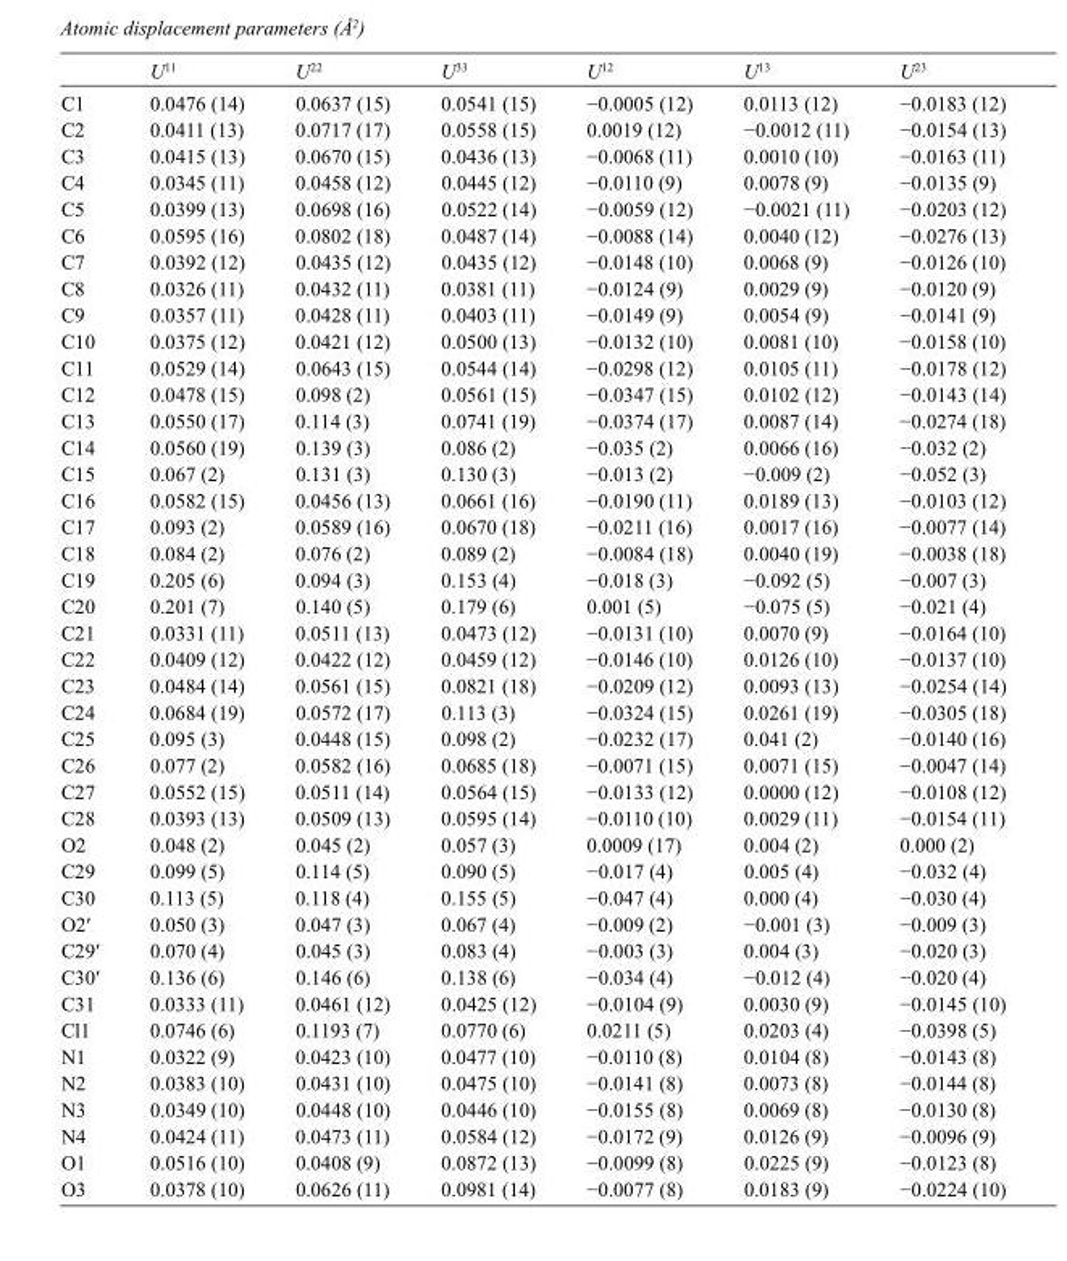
<table><thead><tr><td></td><td>U<sup>11</sup></td><td>U<sup>22</sup></td><td>U<sup>33</sup></td><td>U<sup>12</sup></td><td>U<sup>13</sup></td><td>U<sup>23</sup></td></tr></thead><tbody><tr><td>C1</td><td>0.0476 (14)</td><td>0.0637 (15)</td><td>0.0541 (15)</td><td>−0.0005 (12)</td><td>0.0113 (12)</td><td>−0.0183 (12)</td></tr><tr><td>C2</td><td>0.0411 (13)</td><td>0.0717 (17)</td><td>0.0558 (15)</td><td>0.0019 (12)</td><td>−0.0012 (11)</td><td>−0.0154 (13)</td></tr><tr><td>C3</td><td>0.0415 (13)</td><td>0.0670 (15)</td><td>0.0436 (13)</td><td>−0.0068 (11)</td><td>0.0010 (10)</td><td>−0.0163 (11)</td></tr><tr><td>C4</td><td>0.0345 (11)</td><td>0.0458 (12)</td><td>0.0445 (12)</td><td>−0.0110 (9)</td><td>0.0078 (9)</td><td>−0.0135 (9)</td></tr><tr><td>C5</td><td>0.0399 (13)</td><td>0.0698 (16)</td><td>0.0522 (14)</td><td>−0.0059 (12)</td><td>−0.0021 (11)</td><td>−0.0203 (12)</td></tr><tr><td>C6</td><td>0.0595 (16)</td><td>0.0802 (18)</td><td>0.0487 (14)</td><td>−0.0088 (14)</td><td>0.0040 (12)</td><td>−0.0276 (13)</td></tr><tr><td>C7</td><td>0.0392 (12)</td><td>0.0435 (12)</td><td>0.0435 (12)</td><td>−0.0148 (10)</td><td>0.0068 (9)</td><td>−0.0126 (10)</td></tr><tr><td>C8</td><td>0.0326 (11)</td><td>0.0432 (11)</td><td>0.0381 (11)</td><td>−0.0124 (9)</td><td>0.0029 (9)</td><td>−0.0120 (9)</td></tr><tr><td>C9</td><td>0.0357 (11)</td><td>0.0428 (11)</td><td>0.0403 (11)</td><td>−0.0149 (9)</td><td>0.0054 (9)</td><td>−0.0141 (9)</td></tr><tr><td>C10</td><td>0.0375 (12)</td><td>0.0421 (12)</td><td>0.0500 (13)</td><td>−0.0132 (10)</td><td>0.0081 (10)</td><td>−0.0158 (10)</td></tr><tr><td>C11</td><td>0.0529 (14)</td><td>0.0643 (15)</td><td>0.0544 (14)</td><td>−0.0298 (12)</td><td>0.0105 (11)</td><td>−0.0178 (12)</td></tr><tr><td>C12</td><td>0.0478 (15)</td><td>0.098 (2)</td><td>0.0561 (15)</td><td>−0.0347 (15)</td><td>0.0102 (12)</td><td>−0.0143 (14)</td></tr><tr><td>C13</td><td>0.0550 (17)</td><td>0.114 (3)</td><td>0.0741 (19)</td><td>−0.0374 (17)</td><td>0.0087 (14)</td><td>−0.0274 (18)</td></tr><tr><td>C14</td><td>0.0560 (19)</td><td>0.139 (3)</td><td>0.086 (2)</td><td>−0.035 (2)</td><td>0.0066 (16)</td><td>−0.032 (2)</td></tr><tr><td>C15</td><td>0.067 (2)</td><td>0.131 (3)</td><td>0.130 (3)</td><td>−0.013 (2)</td><td>−0.009 (2)</td><td>−0.052 (3)</td></tr><tr><td>C16</td><td>0.0582 (15)</td><td>0.0456 (13)</td><td>0.0661 (16)</td><td>−0.0190 (11)</td><td>0.0189 (13)</td><td>−0.0103 (12)</td></tr><tr><td>C17</td><td>0.093 (2)</td><td>0.0589 (16)</td><td>0.0670 (18)</td><td>−0.0211 (16)</td><td>0.0017 (16)</td><td>−0.0077 (14)</td></tr><tr><td>C18</td><td>0.084 (2)</td><td>0.076 (2)</td><td>0.089 (2)</td><td>−0.0084 (18)</td><td>0.0040 (19)</td><td>−0.0038 (18)</td></tr><tr><td>C19</td><td>0.205 (6)</td><td>0.094 (3)</td><td>0.153 (4)</td><td>−0.018 (3)</td><td>−0.092 (5)</td><td>−0.007 (3)</td></tr><tr><td>C20</td><td>0.201 (7)</td><td>0.140 (5)</td><td>0.179 (6)</td><td>0.001 (5)</td><td>−0.075 (5)</td><td>−0.021 (4)</td></tr><tr><td>C21</td><td>0.0331 (11)</td><td>0.0511 (13)</td><td>0.0473 (12)</td><td>−0.0131 (10)</td><td>0.0070 (9)</td><td>−0.0164 (10)</td></tr><tr><td>C22</td><td>0.0409 (12)</td><td>0.0422 (12)</td><td>0.0459 (12)</td><td>−0.0146 (10)</td><td>0.0126 (10)</td><td>−0.0137 (10)</td></tr><tr><td>C23</td><td>0.0484 (14)</td><td>0.0561 (15)</td><td>0.0821 (18)</td><td>−0.0209 (12)</td><td>0.0093 (13)</td><td>−0.0254 (14)</td></tr><tr><td>C24</td><td>0.0684 (19)</td><td>0.0572 (17)</td><td>0.113 (3)</td><td>−0.0324 (15)</td><td>0.0261 (19)</td><td>−0.0305 (18)</td></tr><tr><td>C25</td><td>0.095 (3)</td><td>0.0448 (15)</td><td>0.098 (2)</td><td>−0.0232 (17)</td><td>0.041 (2)</td><td>−0.0140 (16)</td></tr><tr><td>C26</td><td>0.077 (2)</td><td>0.0582 (16)</td><td>0.0685 (18)</td><td>−0.0071 (15)</td><td>0.0071 (15)</td><td>−0.0047 (14)</td></tr><tr><td>C27</td><td>0.0552 (15)</td><td>0.0511 (14)</td><td>0.0564 (15)</td><td>−0.0133 (12)</td><td>0.0000 (12)</td><td>−0.0108 (12)</td></tr><tr><td>C28</td><td>0.0393 (13)</td><td>0.0509 (13)</td><td>0.0595 (14)</td><td>−0.0110 (10)</td><td>0.0029 (11)</td><td>−0.0154 (11)</td></tr><tr><td>O2</td><td>0.048 (2)</td><td>0.045 (2)</td><td>0.057 (3)</td><td>0.0009 (17)</td><td>0.004 (2)</td><td>0.000 (2)</td></tr><tr><td>C29</td><td>0.099 (5)</td><td>0.114 (5)</td><td>0.090 (5)</td><td>−0.017 (4)</td><td>0.005 (4)</td><td>−0.032 (4)</td></tr><tr><td>C30</td><td>0.113 (5)</td><td>0.118 (4)</td><td>0.155 (5)</td><td>−0.047 (4)</td><td>0.000 (4)</td><td>−0.030 (4)</td></tr><tr><td>O2′</td><td>0.050 (3)</td><td>0.047 (3)</td><td>0.067 (4)</td><td>−0.009 (2)</td><td>−0.001 (3)</td><td>−0.009 (3)</td></tr><tr><td>C29′</td><td>0.070 (4)</td><td>0.045 (3)</td><td>0.083 (4)</td><td>−0.003 (3)</td><td>0.004 (3)</td><td>−0.020 (3)</td></tr><tr><td>C30′</td><td>0.136 (6)</td><td>0.146 (6)</td><td>0.138 (6)</td><td>−0.034 (4)</td><td>−0.012 (4)</td><td>−0.020 (4)</td></tr><tr><td>C31</td><td>0.0333 (11)</td><td>0.0461 (12)</td><td>0.0425 (12)</td><td>−0.0104 (9)</td><td>0.0030 (9)</td><td>−0.0145 (10)</td></tr><tr><td>Cl1</td><td>0.0746 (6)</td><td>0.1193 (7)</td><td>0.0770 (6)</td><td>0.0211 (5)</td><td>0.0203 (4)</td><td>−0.0398 (5)</td></tr><tr><td>N1</td><td>0.0322 (9)</td><td>0.0423 (10)</td><td>0.0477 (10)</td><td>−0.0110 (8)</td><td>0.0104 (8)</td><td>−0.0143 (8)</td></tr><tr><td>N2</td><td>0.0383 (10)</td><td>0.0431 (10)</td><td>0.0475 (10)</td><td>−0.0141 (8)</td><td>0.0073 (8)</td><td>−0.0144 (8)</td></tr><tr><td>N3</td><td>0.0349 (10)</td><td>0.0448 (10)</td><td>0.0446 (10)</td><td>−0.0155 (8)</td><td>0.0069 (8)</td><td>−0.0130 (8)</td></tr><tr><td>N4</td><td>0.0424 (11)</td><td>0.0473 (11)</td><td>0.0584 (12)</td><td>−0.0172 (9)</td><td>0.0126 (9)</td><td>−0.0096 (9)</td></tr><tr><td>O1</td><td>0.0516 (10)</td><td>0.0408 (9)</td><td>0.0872 (13)</td><td>−0.0099 (8)</td><td>0.0225 (9)</td><td>−0.0123 (8)</td></tr><tr><td>O3</td><td>0.0378 (10)</td><td>0.0626 (11)</td><td>0.0981 (14)</td><td>−0.0077 (8)</td><td>0.0183 (9)</td><td>−0.0224 (10)</td></tr></tbody></table>